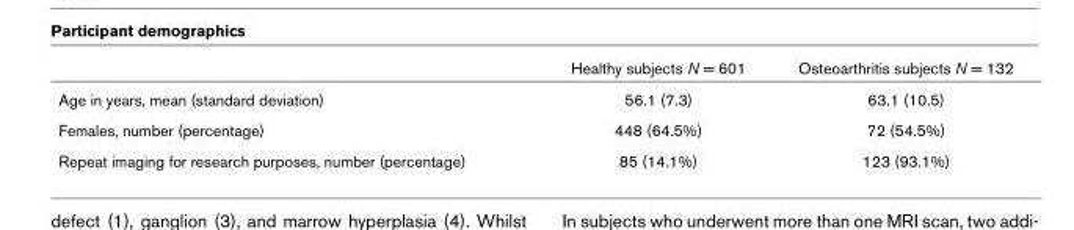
<table><thead><tr><td></td><td>Healthy subjects N = 601</td><td>Osteoarthritis subjects N = 132</td></tr></thead><tbody><tr><td>Age in years, mean (standard deviation)</td><td>56.1 (7.3)</td><td>63.1 (10.5)</td></tr><tr><td>Females, number (percentage)</td><td>448 (64.5%)</td><td>72 (54.5%)</td></tr><tr><td>Repeat imaging for research purposes, number (percentage)</td><td>85 (14.1%)</td><td>123 (93.1%)</td></tr></tbody></table>